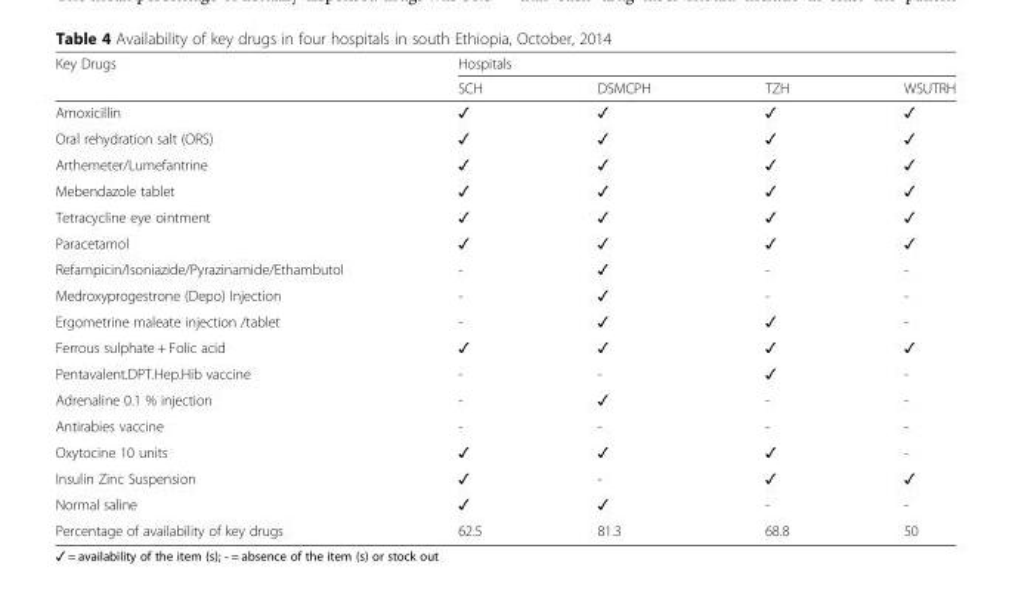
<table><thead><tr><td rowspan="2">Key Drugs</td><td colspan="4">Hospitals</td></tr><tr><td>SCH</td><td>DSMCPH</td><td>TZH</td><td>WSUTRH</td></tr></thead><tbody><tr><td>Amoxicillin</td><td>✓</td><td>✓</td><td>✓</td><td>✓</td></tr><tr><td>Oral rehydration salt (ORS)</td><td>✓</td><td>✓</td><td>✓</td><td>✓</td></tr><tr><td>Arthemeter/Lumefantrine</td><td>✓</td><td>✓</td><td>✓</td><td>✓</td></tr><tr><td>Mebendazole tablet</td><td>✓</td><td>✓</td><td>✓</td><td>✓</td></tr><tr><td>Tetracycline eye ointment</td><td>✓</td><td>✓</td><td>✓</td><td>✓</td></tr><tr><td>Paracetamol</td><td>✓</td><td>✓</td><td>✓</td><td>✓</td></tr><tr><td>Refampicin/Isoniazide/Pyrazinamide/Ethambutol</td><td>-</td><td>✓</td><td>-</td><td>-</td></tr><tr><td>Medroxyprogestrone (Depo) Injection</td><td>-</td><td>✓</td><td>-</td><td>-</td></tr><tr><td>Ergometrine maleate injection /tablet</td><td>-</td><td>✓</td><td>✓</td><td>-</td></tr><tr><td>Ferrous sulphate + Folic acid</td><td>✓</td><td>✓</td><td>✓</td><td>✓</td></tr><tr><td>Pentavalent.DPT.Hep.Hib vaccine</td><td>-</td><td>-</td><td>✓</td><td>-</td></tr><tr><td>Adrenaline 0.1 % injection</td><td>-</td><td>✓</td><td>-</td><td>-</td></tr><tr><td>Antirabies vaccine</td><td>-</td><td>-</td><td>-</td><td>-</td></tr><tr><td>Oxytocine 10 units</td><td>✓</td><td>✓</td><td>✓</td><td>-</td></tr><tr><td>Insulin Zinc Suspension</td><td>✓</td><td>-</td><td>✓</td><td>✓</td></tr><tr><td>Normal saline</td><td>✓</td><td>✓</td><td>-</td><td>-</td></tr><tr><td>Percentage of availability of key drugs</td><td>62.5</td><td>81.3</td><td>68.8</td><td>50</td></tr></tbody></table>